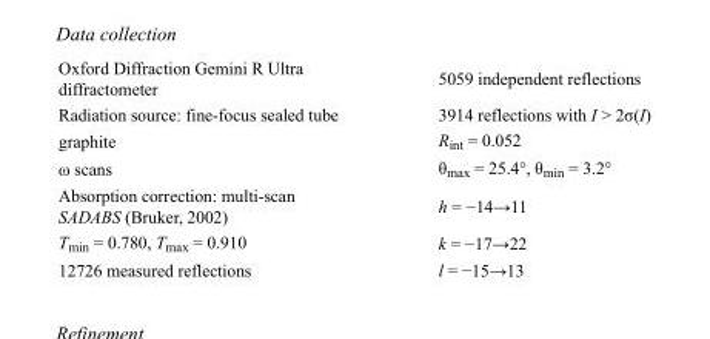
<table><tbody><tr><td>Oxford Diffraction Gemini R Ultra diffractometer</td><td>5059 independent reflections</td></tr><tr><td>Radiation source: fine-focus sealed tube</td><td>3914 reflections with I &gt; 2σ(I)</td></tr><tr><td>graphite</td><td>R<sub>int</sub> = 0.052</td></tr><tr><td>ω scans</td><td>θ<sub>max</sub> = 25.4°, θ<sub>min</sub> = 3.2°</td></tr><tr><td>Absorption correction: multi-scan SADABS (Bruker, 2002)</td><td>h = −14→11</td></tr><tr><td>T<sub>min</sub> = 0.780, T<sub>max</sub> = 0.910</td><td>k = −17→22</td></tr><tr><td>12726 measured reflections</td><td>l = −15→13</td></tr></tbody></table>